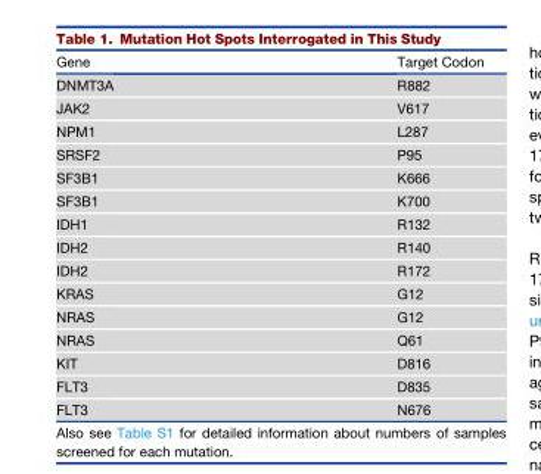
<table><thead><tr><td>Gene</td><td>Target Codon</td></tr></thead><tbody><tr><td>DNMT3A</td><td>R882</td></tr><tr><td>JAK2</td><td>V617</td></tr><tr><td>NPM1</td><td>L287</td></tr><tr><td>SRSF2</td><td>P95</td></tr><tr><td>SF3B1</td><td>K666</td></tr><tr><td>SF3B1</td><td>K700</td></tr><tr><td>IDH1</td><td>R132</td></tr><tr><td>IDH2</td><td>R140</td></tr><tr><td>IDH2</td><td>R172</td></tr><tr><td>KRAS</td><td>G12</td></tr><tr><td>NRAS</td><td>G12</td></tr><tr><td>NRAS</td><td>Q61</td></tr><tr><td>KIT</td><td>D816</td></tr><tr><td>FLT3</td><td>D835</td></tr><tr><td>FLT3</td><td>N676</td></tr></tbody></table>